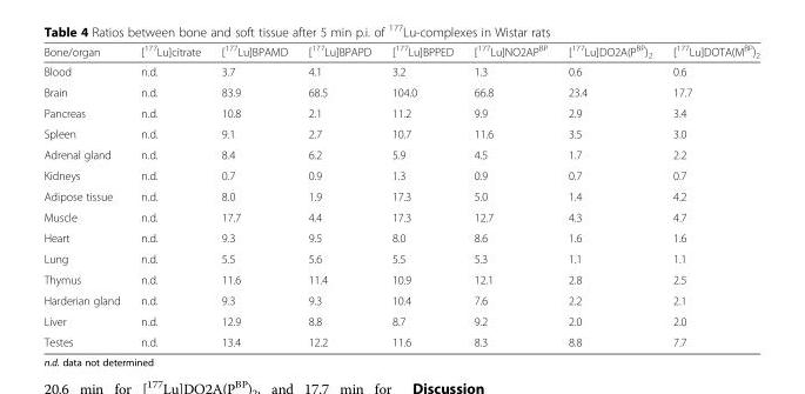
<table><thead><tr><td>Bone/organ</td><td>[<sup>177</sup>Lu]citrate</td><td>[<sup>177</sup>Lu]BPAMD</td><td>[<sup>177</sup>Lu]BPAPD</td><td>[<sup>177</sup>Lu]BPPED</td><td>[<sup>177</sup>Lu]NO2AP<sup>BP</sup></td><td>[<sup>177</sup>Lu]DO2A(P<sup>BP</sup>)<sub>2</sub></td><td>[<sup>177</sup>Lu]DOTA(M<sup>BP</sup>)<sub>2</sub></td></tr></thead><tbody><tr><td>Blood</td><td>n.d.</td><td>3.7</td><td>4.1</td><td>3.2</td><td>1.3</td><td>0.6</td><td>0.6</td></tr><tr><td>Brain</td><td>n.d.</td><td>83.9</td><td>68.5</td><td>104.0</td><td>66.8</td><td>23.4</td><td>17.7</td></tr><tr><td>Pancreas</td><td>n.d.</td><td>10.8</td><td>2.1</td><td>11.2</td><td>9.9</td><td>2.9</td><td>3.4</td></tr><tr><td>Spleen</td><td>n.d.</td><td>9.1</td><td>2.7</td><td>10.7</td><td>11.6</td><td>3.5</td><td>3.0</td></tr><tr><td>Adrenal gland</td><td>n.d.</td><td>8.4</td><td>6.2</td><td>5.9</td><td>4.5</td><td>1.7</td><td>2.2</td></tr><tr><td>Kidneys</td><td>n.d.</td><td>0.7</td><td>0.9</td><td>1.3</td><td>0.9</td><td>0.7</td><td>0.7</td></tr><tr><td>Adipose tissue</td><td>n.d.</td><td>8.0</td><td>1.9</td><td>17.3</td><td>5.0</td><td>1.4</td><td>4.2</td></tr><tr><td>Muscle</td><td>n.d.</td><td>17.7</td><td>4.4</td><td>17.3</td><td>12.7</td><td>4.3</td><td>4.7</td></tr><tr><td>Heart</td><td>n.d.</td><td>9.3</td><td>9.5</td><td>8.0</td><td>8.6</td><td>1.6</td><td>1.6</td></tr><tr><td>Lung</td><td>n.d.</td><td>5.5</td><td>5.6</td><td>5.5</td><td>5.3</td><td>1.1</td><td>1.1</td></tr><tr><td>Thymus</td><td>n.d.</td><td>11.6</td><td>11.4</td><td>10.9</td><td>12.1</td><td>2.8</td><td>2.5</td></tr><tr><td>Harderian gland</td><td>n.d.</td><td>9.3</td><td>9.3</td><td>10.4</td><td>7.6</td><td>2.2</td><td>2.1</td></tr><tr><td>Liver</td><td>n.d.</td><td>12.9</td><td>8.8</td><td>8.7</td><td>9.2</td><td>2.0</td><td>2.0</td></tr><tr><td>Testes</td><td>n.d.</td><td>13.4</td><td>12.2</td><td>11.6</td><td>8.3</td><td>8.8</td><td>7.7</td></tr></tbody></table>